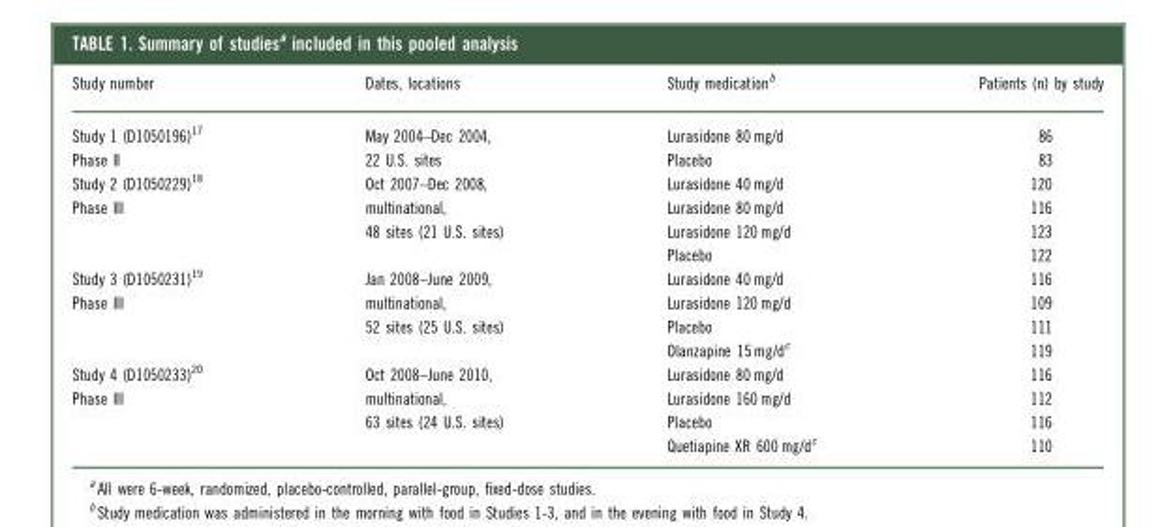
<table><thead><tr><td>Study number</td><td>Dates, locations</td><td>Study medication<sup>b</sup></td><td>Patients (n) by study</td></tr></thead><tbody><tr><td>Study 1 (D1050196)<sup>17</sup></td><td>May 2004–Dec 2004,</td><td>Lurasidone 80 mg/d</td><td>86</td></tr><tr><td>Phase II</td><td>22 U.S. sites</td><td>Placebo</td><td>83</td></tr><tr><td>Study 2 (D1050229)<sup>18</sup></td><td>Oct 2007–Dec 2008,</td><td>Lurasidone 40 mg/d</td><td>120</td></tr><tr><td rowspan="3">Phase III</td><td>multinational,</td><td>Lurasidone 80 mg/d</td><td>116</td></tr><tr><td>48 sites (21 U.S. sites)</td><td>Lurasidone 120 mg/d</td><td>123</td></tr><tr><td></td><td>Placebo</td><td>122</td></tr><tr><td>Study 3 (D1050231)<sup>19</sup></td><td>Jan 2008–June 2009,</td><td>Lurasidone 40 mg/d</td><td>116</td></tr><tr><td rowspan="3">Phase III</td><td>multinational,</td><td>Lurasidone 120 mg/d</td><td>109</td></tr><tr><td>52 sites (25 U.S. sites)</td><td>Placebo</td><td>111</td></tr><tr><td></td><td>Olanzapine 15 mg/d<sup>c</sup></td><td>119</td></tr><tr><td>Study 4 (D1050233)<sup>20</sup></td><td>Oct 2008–June 2010,</td><td>Lurasidone 80 mg/d</td><td>116</td></tr><tr><td rowspan="3">Phase III</td><td>multinational,</td><td>Lurasidone 160 mg/d</td><td>112</td></tr><tr><td>63 sites (24 U.S. sites)</td><td>Placebo</td><td>116</td></tr><tr><td></td><td>Quetiapine XR 600 mg/d<sup>c</sup></td><td>110</td></tr></tbody></table>